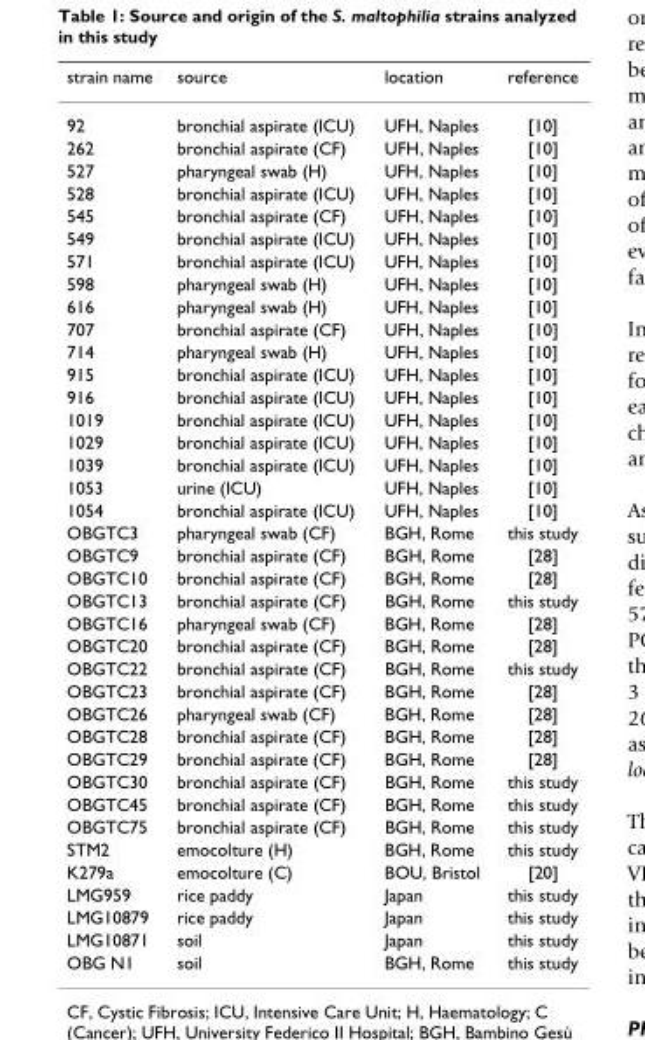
<table><thead><tr><td>strain name</td><td>source</td><td>location</td><td>reference</td></tr></thead><tbody><tr><td>92</td><td>bronchial aspirate (ICU)</td><td>UFH, Naples</td><td>[10]</td></tr><tr><td>262</td><td>bronchial aspirate (CF)</td><td>UFH, Naples</td><td>[10]</td></tr><tr><td>527</td><td>pharyngeal swab (H)</td><td>UFH, Naples</td><td>[10]</td></tr><tr><td>528</td><td>bronchial aspirate (ICU)</td><td>UFH, Naples</td><td>[10]</td></tr><tr><td>545</td><td>bronchial aspirate (CF)</td><td>UFH, Naples</td><td>[10]</td></tr><tr><td>549</td><td>bronchial aspirate (ICU)</td><td>UFH, Naples</td><td>[10]</td></tr><tr><td>571</td><td>bronchial aspirate (ICU)</td><td>UFH, Naples</td><td>[10]</td></tr><tr><td>598</td><td>pharyngeal swab (H)</td><td>UFH, Naples</td><td>[10]</td></tr><tr><td>616</td><td>pharyngeal swab (H)</td><td>UFH, Naples</td><td>[10]</td></tr><tr><td>707</td><td>bronchial aspirate (CF)</td><td>UFH, Naples</td><td>[10]</td></tr><tr><td>714</td><td>pharyngeal swab (H)</td><td>UFH, Naples</td><td>[10]</td></tr><tr><td>915</td><td>bronchial aspirate (ICU)</td><td>UFH, Naples</td><td>[10]</td></tr><tr><td>916</td><td>bronchial aspirate (ICU)</td><td>UFH, Naples</td><td>[10]</td></tr><tr><td>1019</td><td>bronchial aspirate (ICU)</td><td>UFH, Naples</td><td>[10]</td></tr><tr><td>1029</td><td>bronchial aspirate (ICU)</td><td>UFH, Naples</td><td>[10]</td></tr><tr><td>1039</td><td>bronchial aspirate (ICU)</td><td>UFH, Naples</td><td>[10]</td></tr><tr><td>1053</td><td>urine (ICU)</td><td>UFH, Naples</td><td>[10]</td></tr><tr><td>1054</td><td>bronchial aspirate (ICU)</td><td>UFH, Naples</td><td>[10]</td></tr><tr><td>OBGTC3</td><td>pharyngeal swab (CF)</td><td>BGH, Rome</td><td>this study</td></tr><tr><td>OBGTC9</td><td>bronchial aspirate (CF)</td><td>BGH, Rome</td><td>[28]</td></tr><tr><td>OBGTC10</td><td>bronchial aspirate (CF)</td><td>BGH, Rome</td><td>[28]</td></tr><tr><td>OBGTC13</td><td>bronchial aspirate (CF)</td><td>BGH, Rome</td><td>this study</td></tr><tr><td>OBGTC16</td><td>pharyngeal swab (CF)</td><td>BGH, Rome</td><td>[28]</td></tr><tr><td>OBGTC20</td><td>bronchial aspirate (CF)</td><td>BGH, Rome</td><td>[28]</td></tr><tr><td>OBGTC22</td><td>bronchial aspirate (CF)</td><td>BGH, Rome</td><td>this study</td></tr><tr><td>OBGTC23</td><td>bronchial aspirate (CF)</td><td>BGH, Rome</td><td>[28]</td></tr><tr><td>OBGTC26</td><td>pharyngeal swab (CF)</td><td>BGH, Rome</td><td>[28]</td></tr><tr><td>OBGTC28</td><td>bronchial aspirate (CF)</td><td>BGH, Rome</td><td>[28]</td></tr><tr><td>OBGTC29</td><td>bronchial aspirate (CF)</td><td>BGH, Rome</td><td>[28]</td></tr><tr><td>OBGTC30</td><td>bronchial aspirate (CF)</td><td>BGH, Rome</td><td>this study</td></tr><tr><td>OBGTC45</td><td>bronchial aspirate (CF)</td><td>BGH, Rome</td><td>this study</td></tr><tr><td>OBGTC75</td><td>bronchial aspirate (CF)</td><td>BGH, Rome</td><td>this study</td></tr><tr><td>STM2</td><td>emocolture (H)</td><td>BGH, Rome</td><td>this study</td></tr><tr><td>K279a</td><td>emocolture (C)</td><td>BOU, Bristol</td><td>[20]</td></tr><tr><td>LMG959</td><td>rice paddy</td><td>Japan</td><td>this study</td></tr><tr><td>LMG10879</td><td>rice paddy</td><td>Japan</td><td>this study</td></tr><tr><td>LMG10871</td><td>soil</td><td>Japan</td><td>this study</td></tr><tr><td>OBG N1</td><td>soil</td><td>BGH, Rome</td><td>this study</td></tr></tbody></table>